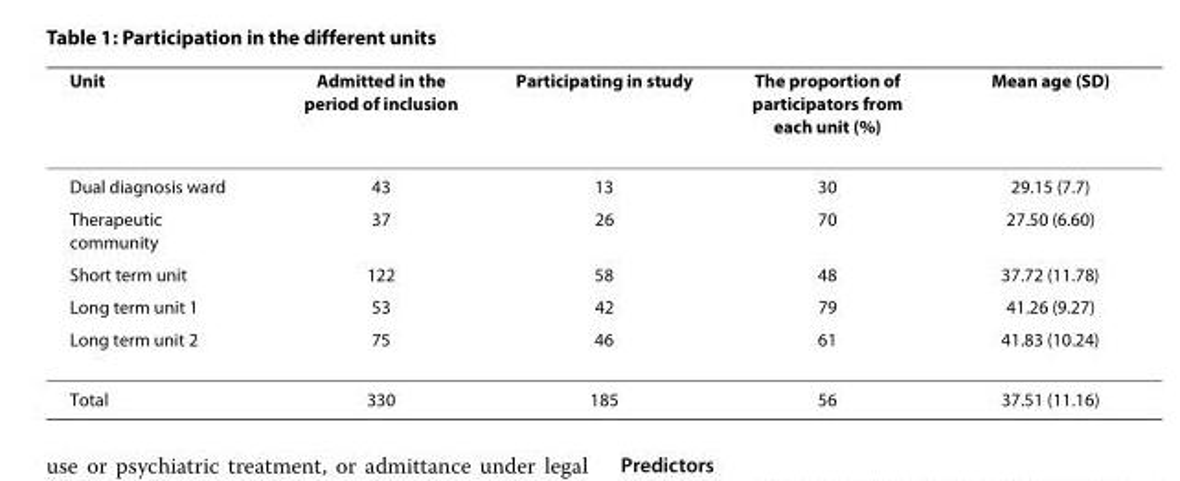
<table><thead><tr><td>Unit</td><td>Admitted in the period of inclusion</td><td>Participating in study</td><td>The proportion of participators from each unit (%)</td><td>Mean age (SD)</td></tr></thead><tbody><tr><td>Dual diagnosis ward</td><td>43</td><td>13</td><td>30</td><td>29.15 (7.7)</td></tr><tr><td>Therapeutic community</td><td>37</td><td>26</td><td>70</td><td>27.50 (6.60)</td></tr><tr><td>Short term unit</td><td>122</td><td>58</td><td>48</td><td>37.72 (11.78)</td></tr><tr><td>Long term unit 1</td><td>53</td><td>42</td><td>79</td><td>41.26 (9.27)</td></tr><tr><td>Long term unit 2</td><td>75</td><td>46</td><td>61</td><td>41.83 (10.24)</td></tr><tr><td>Total</td><td>330</td><td>185</td><td>56</td><td>37.51 (11.16)</td></tr></tbody></table>